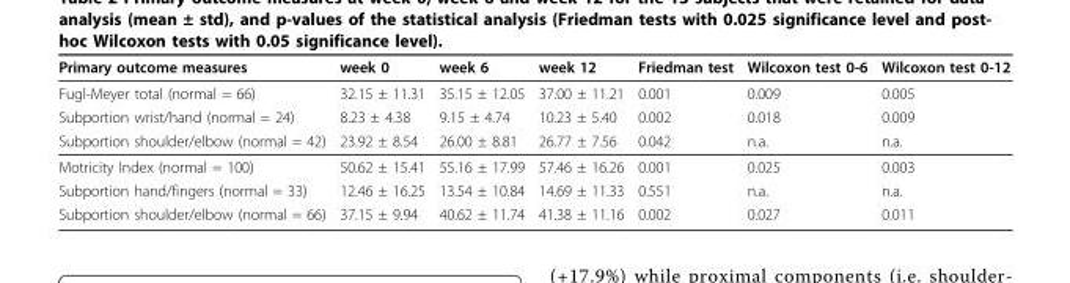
<table><thead><tr><td>Primary outcome measures</td><td>week 0</td><td>week 6</td><td>week 12</td><td>Friedman test</td><td>Wilcoxon test 0-6</td><td>Wilcoxon test 0-12</td></tr></thead><tbody><tr><td>Fugl-Meyer total (normal = 66)</td><td>32.15 ± 11.31</td><td>35.15 ± 12.05</td><td>37.00 ± 11.21</td><td>0.001</td><td>0.009</td><td>0.005</td></tr><tr><td>Subportion wrist/hand (normal = 24)</td><td>8.23 ± 4.38</td><td>9.15 ± 4.74</td><td>10.23 ± 5.40</td><td>0.002</td><td>0.018</td><td>0.009</td></tr><tr><td>Subportion shoulder/elbow (normal = 42)</td><td>23.92 ± 8.54</td><td>26.00 ± 8.81</td><td>26.77 ± 7.56</td><td>0.042</td><td>n.a.</td><td>n.a.</td></tr><tr><td>Motricity Index (normal = 100)</td><td>50.62 ± 15.41</td><td>55.16 ± 17.99</td><td>57.46 ± 16.26</td><td>0.001</td><td>0.025</td><td>0.003</td></tr><tr><td>Subportion hand/fingers (normal = 33)</td><td>12.46 ± 16.25</td><td>13.54 ± 10.84</td><td>14.69 ± 11.33</td><td>0.551</td><td>n.a.</td><td>n.a.</td></tr><tr><td>Subportion shoulder/elbow (normal = 66)</td><td>37.15 ± 9.94</td><td>40.62 ± 11.74</td><td>41.38 ± 11.16</td><td>0.002</td><td>0.027</td><td>0.011</td></tr></tbody></table>